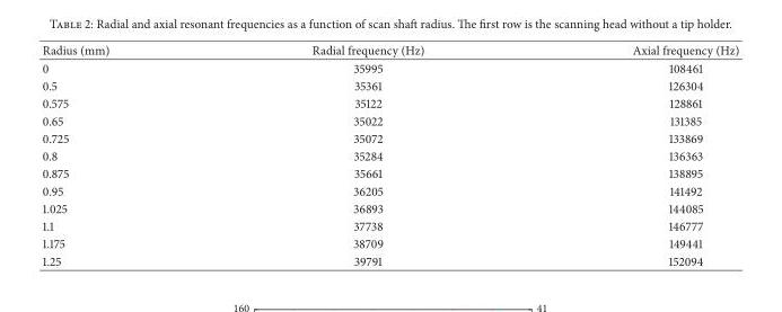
<table><thead><tr><td>Radius (mm)</td><td>Radial frequency (Hz)</td><td>Axial frequency (Hz)</td></tr></thead><tbody><tr><td>0</td><td>35995</td><td>108461</td></tr><tr><td>0.5</td><td>35361</td><td>126304</td></tr><tr><td>0.575</td><td>35122</td><td>128861</td></tr><tr><td>0.65</td><td>35022</td><td>131385</td></tr><tr><td>0.725</td><td>35072</td><td>133869</td></tr><tr><td>0.8</td><td>35284</td><td>136363</td></tr><tr><td>0.875</td><td>35661</td><td>138895</td></tr><tr><td>0.95</td><td>36205</td><td>141492</td></tr><tr><td>1.025</td><td>36893</td><td>144085</td></tr><tr><td>1.1</td><td>37738</td><td>146777</td></tr><tr><td>1.175</td><td>38709</td><td>149441</td></tr><tr><td>1.25</td><td>39791</td><td>152094</td></tr></tbody></table>